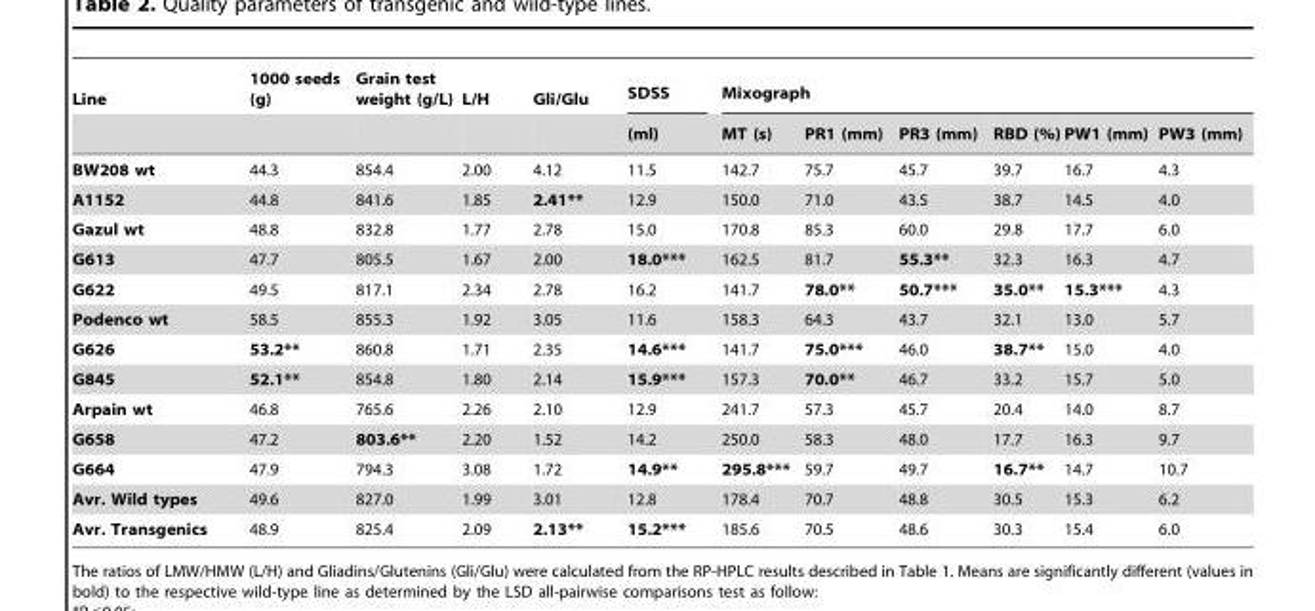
<table><thead><tr><td rowspan="2">Line</td><td rowspan="2">1000 seeds (g)</td><td rowspan="2">Grain test weight (g/L)</td><td rowspan="2">L/H</td><td rowspan="2">Gli/Glu</td><td rowspan="2">SDSS (ml)</td><td colspan="6">Mixograph</td></tr><tr><td>MT (s)</td><td>PR1 (mm)</td><td>PR3 (mm)</td><td>RBD (%)</td><td>PW1 (mm)</td><td>PW3 (mm)</td></tr></thead><tbody><tr><td>BW208 wt</td><td>44.3</td><td>854.4</td><td>2.00</td><td>4.12</td><td>11.5</td><td>142.7</td><td>75.7</td><td>45.7</td><td>39.7</td><td>16.7</td><td>4.3</td></tr><tr><td>A1152</td><td>44.8</td><td>841.6</td><td>1.85</td><td>2.41**</td><td>12.9</td><td>150.0</td><td>71.0</td><td>43.5</td><td>38.7</td><td>14.5</td><td>4.0</td></tr><tr><td>Gazul wt</td><td>48.8</td><td>832.8</td><td>1.77</td><td>2.78</td><td>15.0</td><td>170.8</td><td>85.3</td><td>60.0</td><td>29.8</td><td>17.7</td><td>6.0</td></tr><tr><td>G613</td><td>47.7</td><td>805.5</td><td>1.67</td><td>2.00</td><td>18.0***</td><td>162.5</td><td>81.7</td><td>55.3**</td><td>32.3</td><td>16.3</td><td>4.7</td></tr><tr><td>G622</td><td>49.5</td><td>817.1</td><td>2.34</td><td>2.78</td><td>16.2</td><td>141.7</td><td>78.0**</td><td>50.7***</td><td>35.0**</td><td>15.3***</td><td>4.3</td></tr><tr><td>Podenco wt</td><td>58.5</td><td>855.3</td><td>1.92</td><td>3.05</td><td>11.6</td><td>158.3</td><td>64.3</td><td>43.7</td><td>32.1</td><td>13.0</td><td>5.7</td></tr><tr><td>G626</td><td>53.2**</td><td>860.8</td><td>1.71</td><td>2.35</td><td>14.6***</td><td>141.7</td><td>75.0***</td><td>46.0</td><td>38.7**</td><td>15.0</td><td>4.0</td></tr><tr><td>G845</td><td>52.1**</td><td>854.8</td><td>1.80</td><td>2.14</td><td>15.9***</td><td>157.3</td><td>70.0**</td><td>46.7</td><td>33.2</td><td>15.7</td><td>5.0</td></tr><tr><td>Arpain wt</td><td>46.8</td><td>765.6</td><td>2.26</td><td>2.10</td><td>12.9</td><td>241.7</td><td>57.3</td><td>45.7</td><td>20.4</td><td>14.0</td><td>8.7</td></tr><tr><td>G658</td><td>47.2</td><td>803.6**</td><td>2.20</td><td>1.52</td><td>14.2</td><td>250.0</td><td>58.3</td><td>48.0</td><td>17.7</td><td>16.3</td><td>9.7</td></tr><tr><td>G664</td><td>47.9</td><td>794.3</td><td>3.08</td><td>1.72</td><td>14.9**</td><td>295.8***</td><td>59.7</td><td>49.7</td><td>16.7**</td><td>14.7</td><td>10.7</td></tr><tr><td>Avr. Wild types</td><td>49.6</td><td>827.0</td><td>1.99</td><td>3.01</td><td>12.8</td><td>178.4</td><td>70.7</td><td>48.8</td><td>30.5</td><td>15.3</td><td>6.2</td></tr><tr><td>Avr. Transgenics</td><td>48.9</td><td>825.4</td><td>2.09</td><td>2.13**</td><td>15.2***</td><td>185.6</td><td>70.5</td><td>48.6</td><td>30.3</td><td>15.4</td><td>6.0</td></tr></tbody></table>